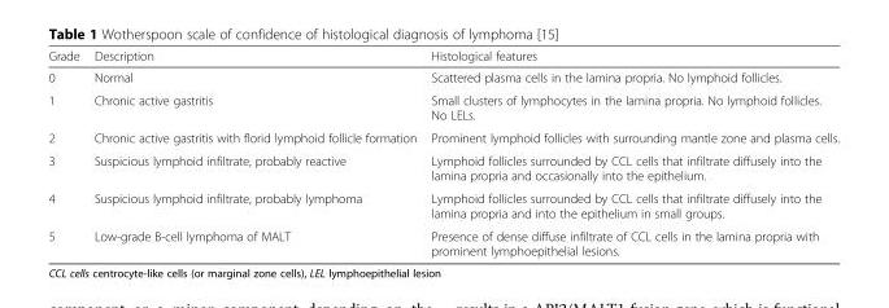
<table><thead><tr><td>Grade</td><td>Description</td><td>Histological features</td></tr></thead><tbody><tr><td>0</td><td>Normal</td><td>Scattered plasma cells in the lamina propria. No lymphoid follicles.</td></tr><tr><td>1</td><td>Chronic active gastritis</td><td>Small clusters of lymphocytes in the lamina propria. No lymphoid follicles. No LELs.</td></tr><tr><td>2</td><td>Chronic active gastritis with florid lymphoid follicle formation</td><td>Prominent lymphoid follicles with surrounding mantle zone and plasma cells.</td></tr><tr><td>3</td><td>Suspicious lymphoid infiltrate, probably reactive</td><td>Lymphoid follicles surrounded by CCL cells that infiltrate diffusely into the lamina propria and occasionally into the epithelium.</td></tr><tr><td>4</td><td>Suspicious lymphoid infiltrate, probably lymphoma</td><td>Lymphoid follicles surrounded by CCL cells that infiltrate diffusely into the lamina propria and into the epithelium in small groups.</td></tr><tr><td>5</td><td>Low-grade B-cell lymphoma of MALT</td><td>Presence of dense diffuse infiltrate of CCL cells in the lamina propria with prominent lymphoepithelial lesions.</td></tr></tbody></table>